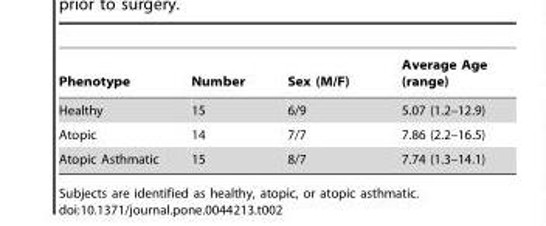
<table><thead><tr><td>Phenotype</td><td>Number</td><td>Sex (M/F)</td><td>Average Age (range)</td></tr></thead><tbody><tr><td>Healthy</td><td>15</td><td>6/9</td><td>5.07 (1.2–12.9)</td></tr><tr><td>Atopic</td><td>14</td><td>7/7</td><td>7.86 (2.2–16.5)</td></tr><tr><td>Atopic Asthmatic</td><td>15</td><td>8/7</td><td>7.74 (1.3–14.1)</td></tr></tbody></table>